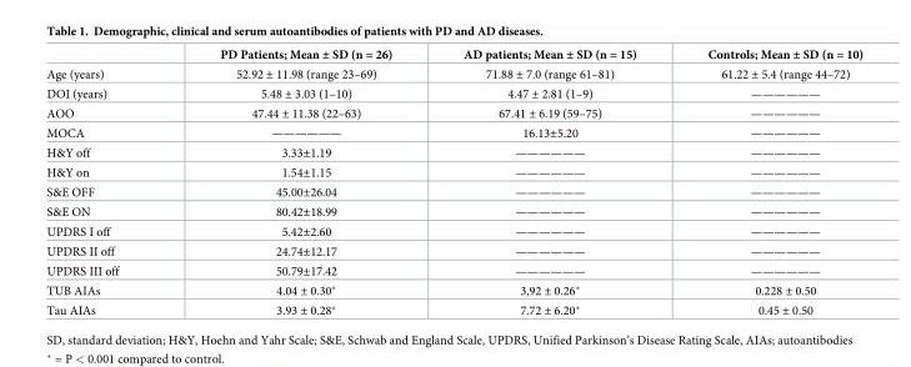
<table><thead><tr><td></td><td>PD Patients; Mean ± SD (n = 26)</td><td>AD patients; Mean ± SD (n = 15)</td><td>Controls; Mean ± SD (n = 10)</td></tr></thead><tbody><tr><td>Age (years)</td><td>52.92 ± 11.98 (range 23–69)</td><td>71.88 ± 7.0 (range 61–81)</td><td>61.22 ± 5.4 (range 44–72)</td></tr><tr><td>DOI (years)</td><td>5.48 ± 3.03 (1–10)</td><td>4.47 ± 2.81 (1–9)</td><td>——————</td></tr><tr><td>AOO</td><td>47.44 ± 11.38 (22–63)</td><td>67.41 ± 6.19 (59–75)</td><td>——————</td></tr><tr><td>MOCA</td><td>——————</td><td>16.13±5.20</td><td>——————</td></tr><tr><td>H&amp;Y off</td><td>3.33±1.19</td><td>——————</td><td>——————</td></tr><tr><td>H&amp;Y on</td><td>1.54±1.15</td><td>——————</td><td>——————</td></tr><tr><td>S&amp;E OFF</td><td>45.00±26.04</td><td>——————</td><td>——————</td></tr><tr><td>S&amp;E ON</td><td>80.42±18.99</td><td>——————</td><td>——————</td></tr><tr><td>UPDRS I off</td><td>5.42±2.60</td><td>——————</td><td>——————</td></tr><tr><td>UPDRS II off</td><td>24.74±12.17</td><td>——————</td><td>——————</td></tr><tr><td>UPDRS III off</td><td>50.79±17.42</td><td>——————</td><td>——————</td></tr><tr><td>TUB AIAs</td><td>4.04 ± 0.30*</td><td>3,92 ± 0.26*</td><td>0.228 ± 0.50</td></tr><tr><td>Tau AIAs</td><td>3.93 ± 0.28*</td><td>7.72 ± 6.20*</td><td>0.45 ± 0.50</td></tr></tbody></table>